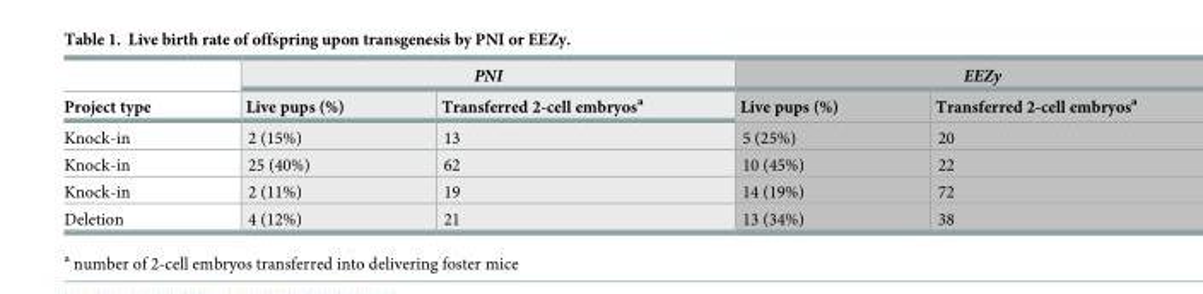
<table><thead><tr><td rowspan="2">Project type</td><td colspan="2">PNI</td><td colspan="2">EEZy</td></tr><tr><td>Live pups (%)</td><td>Transferred 2-cell embryos<sup>a</sup></td><td>Live pups (%)</td><td>Transferred 2-cell embryos<sup>a</sup></td></tr></thead><tbody><tr><td>Knock-in</td><td>2 (15%)</td><td>13</td><td>5 (25%)</td><td>20</td></tr><tr><td>Knock-in</td><td>25 (40%)</td><td>62</td><td>10 (45%)</td><td>22</td></tr><tr><td>Knock-in</td><td>2 (11%)</td><td>19</td><td>14 (19%)</td><td>72</td></tr><tr><td>Deletion</td><td>4 (12%)</td><td>21</td><td>13 (34%)</td><td>38</td></tr></tbody></table>